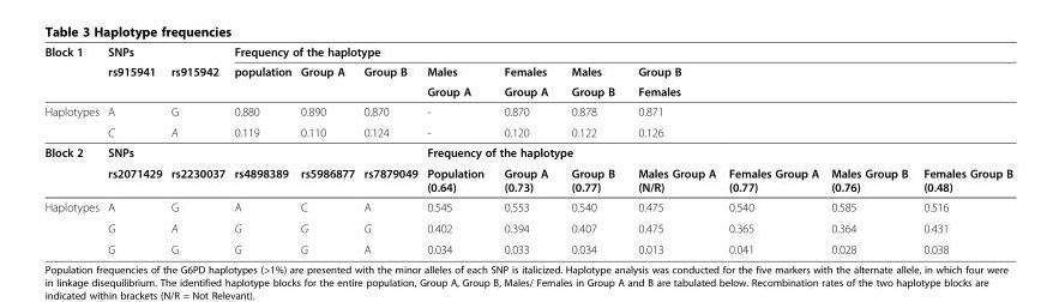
<table><thead><tr><td rowspan="3">Block 1</td><td rowspan="3">SNPs rs915941</td><td rowspan="3">rs915942</td><td colspan="10">Frequency of the haplotype</td></tr><tr><td rowspan="2">population</td><td rowspan="2">Group A</td><td rowspan="2">Group B</td><td rowspan="2">Males Group A</td><td rowspan="2">Females Group A</td><td rowspan="2">Males Group B</td><td rowspan="2">Group B Females</td><td rowspan="2"></td><td rowspan="2"></td><td rowspan="2"></td></tr><tr></tr></thead><tbody><tr><td rowspan="2">Haplotypes</td><td>A</td><td>G</td><td>0.880</td><td>0.890</td><td>0.870</td><td>-</td><td>0.870</td><td>0.878</td><td>0.871</td><td></td><td></td><td></td></tr><tr><td>C</td><td>A</td><td>0.119</td><td>0.110</td><td>0.124</td><td>-</td><td>0.120</td><td>0.122</td><td>0.126</td><td></td><td></td><td></td></tr><tr><td rowspan="2">Block 2</td><td>SNPs</td><td></td><td></td><td></td><td></td><td colspan="7">Frequency of the haplotype</td></tr><tr><td>rs2071429</td><td>rs2230037</td><td>rs4898389</td><td>rs5986877</td><td>rs7879049</td><td>Population (0.64)</td><td>Group A (0.73)</td><td>Group B (0.77)</td><td>Males Group A (N/R)</td><td>Females Group A (0.77)</td><td>Males Group B (0.76)</td><td>Females Group B (0.48)</td></tr><tr><td rowspan="3">Haplotypes</td><td>A</td><td>G</td><td>A</td><td>C</td><td>A</td><td>0.545</td><td>0.553</td><td>0.540</td><td>0.475</td><td>0.540</td><td>0.585</td><td>0.516</td></tr><tr><td>G</td><td>A</td><td>G</td><td>G</td><td>G</td><td>0.402</td><td>0.394</td><td>0.407</td><td>0.475</td><td>0.365</td><td>0.364</td><td>0.431</td></tr><tr><td>G</td><td>G</td><td>G</td><td>G</td><td>A</td><td>0.034</td><td>0.033</td><td>0.034</td><td>0.013</td><td>0.041</td><td>0.028</td><td>0.038</td></tr></tbody></table>